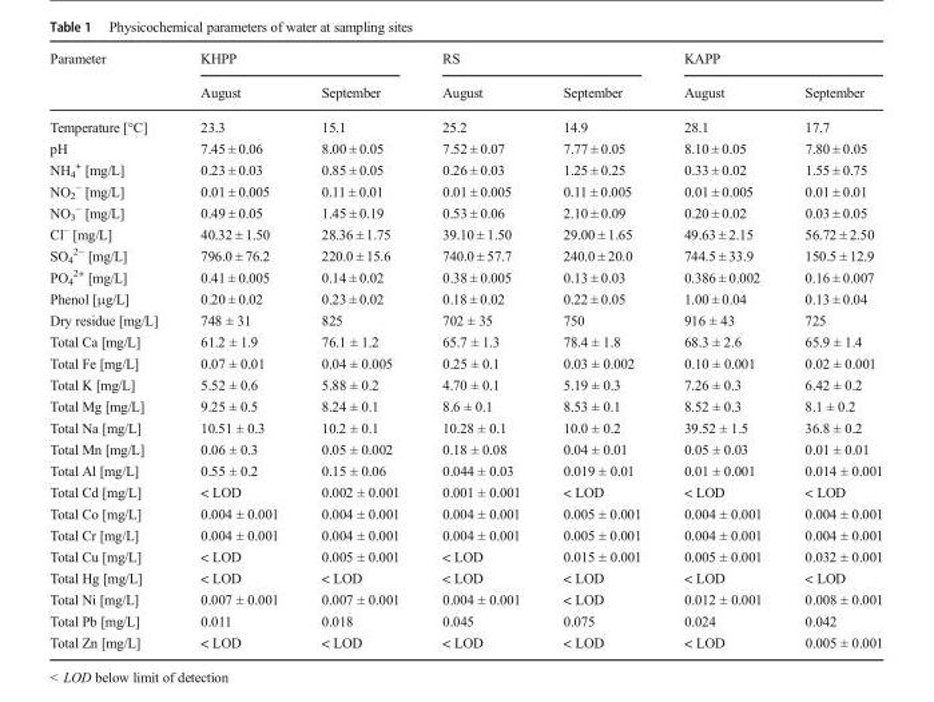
<table><thead><tr><td rowspan="2">Parameter</td><td colspan="2">KHPP</td><td colspan="2">RS</td><td colspan="2">KAPP</td></tr><tr><td>August</td><td>September</td><td>August</td><td>September</td><td>August</td><td>September</td></tr></thead><tbody><tr><td>Temperature [°C]</td><td>23.3</td><td>15.1</td><td>25.2</td><td>14.9</td><td>28.1</td><td>17.7</td></tr><tr><td>рН</td><td>7.45 ± 0.06</td><td>8.00 ± 0.05</td><td>7.52 ± 0.07</td><td>7.77 ± 0.05</td><td>8.10 ± 0.05</td><td>7.80 ± 0.05</td></tr><tr><td>NH<sub>4</sub> <sup>+</sup> [mg/L]</td><td>0.23 ± 0.03</td><td>0.85 ± 0.05</td><td>0.26 ± 0.03</td><td>1.25 ± 0.25</td><td>0.33 ± 0.02</td><td>1.55 ± 0.75</td></tr><tr><td>NO<sub>2</sub> <sup>−</sup> [mg/L]</td><td>0.01 ± 0.005</td><td>0.11 ± 0.01</td><td>0.01 ± 0.005</td><td>0.11 ± 0.005</td><td>0.01 ± 0.005</td><td>0.01 ± 0.01</td></tr><tr><td>NO<sub>3</sub> <sup>−</sup> [mg/L]</td><td>0.49 ± 0.05</td><td>1.45 ± 0.19</td><td>0.53 ± 0.06</td><td>2.10 ± 0.09</td><td>0.20 ± 0.02</td><td>0.03 ± 0.05</td></tr><tr><td>Cl<sup>−</sup> [mg/L]</td><td>40.32 ± 1.50</td><td>28.36 ± 1.75</td><td>39.10 ± 1.50</td><td>29.00 ± 1.65</td><td>49.63 ± 2.15</td><td>56.72 ± 2.50</td></tr><tr><td>SO<sub>4</sub> <sup>2−</sup> [mg/L]</td><td>796.0 ± 76.2</td><td>220.0 ± 15.6</td><td>740.0 ± 57.7</td><td>240.0 ± 20.0</td><td>744.5 ± 33.9</td><td>150.5 ± 12.9</td></tr><tr><td>PO<sub>4</sub> <sup>2+</sup> [mg/L]</td><td>0.41 ± 0.005</td><td>0.14 ± 0.02</td><td>0.38 ± 0.005</td><td>0.13 ± 0.03</td><td>0.386 ± 0.002</td><td>0.16 ± 0.007</td></tr><tr><td>Phenol [μg/L]</td><td>0.20 ± 0.02</td><td>0.23 ± 0.02</td><td>0.18 ± 0.02</td><td>0.22 ± 0.05</td><td>1.00 ± 0.04</td><td>0.13 ± 0.04</td></tr><tr><td>Dry residue [mg/L]</td><td>748 ± 31</td><td>825</td><td>702 ± 35</td><td>750</td><td>916 ± 43</td><td>725</td></tr><tr><td>Total Ca [mg/L]</td><td>61.2 ± 1.9</td><td>76.1 ± 1.2</td><td>65.7 ± 1.3</td><td>78.4 ± 1.8</td><td>68.3 ± 2.6</td><td>65.9 ± 1.4</td></tr><tr><td>Total Fe [mg/L]</td><td>0.07 ± 0.01</td><td>0.04 ± 0.005</td><td>0.25 ± 0.1</td><td>0.03 ± 0.002</td><td>0.10 ± 0.001</td><td>0.02 ± 0.001</td></tr><tr><td>Total K [mg/L]</td><td>5.52 ± 0.6</td><td>5.88 ± 0.2</td><td>4.70 ± 0.1</td><td>5.19 ± 0.3</td><td>7.26 ± 0.3</td><td>6.42 ± 0.2</td></tr><tr><td>Total Mg [mg/L]</td><td>9.25 ± 0.5</td><td>8.24 ± 0.1</td><td>8.6 ± 0.1</td><td>8.53 ± 0.1</td><td>8.52 ± 0.3</td><td>8.1 ± 0.2</td></tr><tr><td>Total Na [mg/L]</td><td>10.51 ± 0.3</td><td>10.2 ± 0.1</td><td>10.28 ± 0.1</td><td>10.0 ± 0.2</td><td>39.52 ± 1.5</td><td>36.8 ± 0.2</td></tr><tr><td>Total Mn [mg/L]</td><td>0.06 ± 0.3</td><td>0.05 ± 0.002</td><td>0.18 ± 0.08</td><td>0.04 ± 0.01</td><td>0.05 ± 0.03</td><td>0.01 ± 0.01</td></tr><tr><td>Total Al [mg/L]</td><td>0.55 ± 0.2</td><td>0.15 ± 0.06</td><td>0.044 ± 0.03</td><td>0.019 ± 0.01</td><td>0.01 ± 0.001</td><td>0.014 ± 0.001</td></tr><tr><td>Total Cd [mg/L]</td><td>&lt; LOD</td><td>0.002 ± 0.001</td><td>0.001 ± 0.001</td><td>&lt; LOD</td><td>&lt; LOD</td><td>&lt; LOD</td></tr><tr><td>Total Co [mg/L]</td><td>0.004 ± 0.001</td><td>0.004 ± 0.001</td><td>0.004 ± 0.001</td><td>0.005 ± 0.001</td><td>0.004 ± 0.001</td><td>0.004 ± 0.001</td></tr><tr><td>Total Cr [mg/L]</td><td>0.004 ± 0.001</td><td>0.004 ± 0.001</td><td>0.004 ± 0.001</td><td>0.005 ± 0.001</td><td>0.004 ± 0.001</td><td>0.004 ± 0.001</td></tr><tr><td>Total Cu [mg/L]</td><td>&lt; LOD</td><td>0.005 ± 0.001</td><td>&lt; LOD</td><td>0.015 ± 0.001</td><td>0.005 ± 0.001</td><td>0.032 ± 0.001</td></tr><tr><td>Total Hg [mg/L]</td><td>&lt; LOD</td><td>&lt; LOD</td><td>&lt; LOD</td><td>&lt; LOD</td><td>&lt; LOD</td><td>&lt; LOD</td></tr><tr><td>Total Ni [mg/L]</td><td>0.007 ± 0.001</td><td>0.007 ± 0.001</td><td>0.004 ± 0.001</td><td>&lt; LOD</td><td>0.012 ± 0.001</td><td>0.008 ± 0.001</td></tr><tr><td>Total Pb [mg/L]</td><td>0.011</td><td>0.018</td><td>0.045</td><td>0.075</td><td>0.024</td><td>0.042</td></tr><tr><td>Total Zn [mg/L]</td><td>&lt; LOD</td><td>&lt; LOD</td><td>&lt; LOD</td><td>&lt; LOD</td><td>&lt; LOD</td><td>0.005 ± 0.001</td></tr></tbody></table>